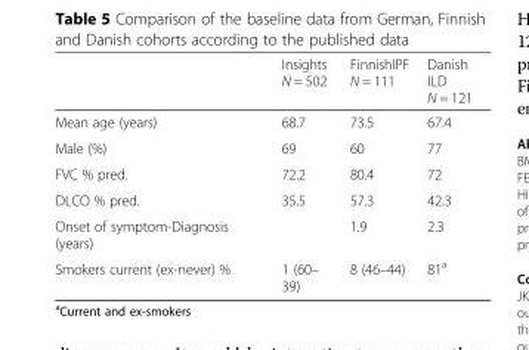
<table><thead><tr><td></td><td>Insights N = 502</td><td>FinnishIPF N = 111</td><td>Danish ILD N = 121</td></tr></thead><tbody><tr><td>Mean age (years)</td><td>68.7</td><td>73.5</td><td>67.4</td></tr><tr><td>Male (%)</td><td>69</td><td>60</td><td>77</td></tr><tr><td>FVC % pred.</td><td>72.2</td><td>80.4</td><td>72</td></tr><tr><td>DLCO % pred.</td><td>35.5</td><td>57.3</td><td>42.3</td></tr><tr><td>Onset of symptom-Diagnosis (years)</td><td></td><td>1.9</td><td>2.3</td></tr><tr><td>Smokers current (ex-never) %</td><td>1 (60– 39)</td><td>8 (46–44)</td><td>81<sup>a</sup></td></tr></tbody></table>